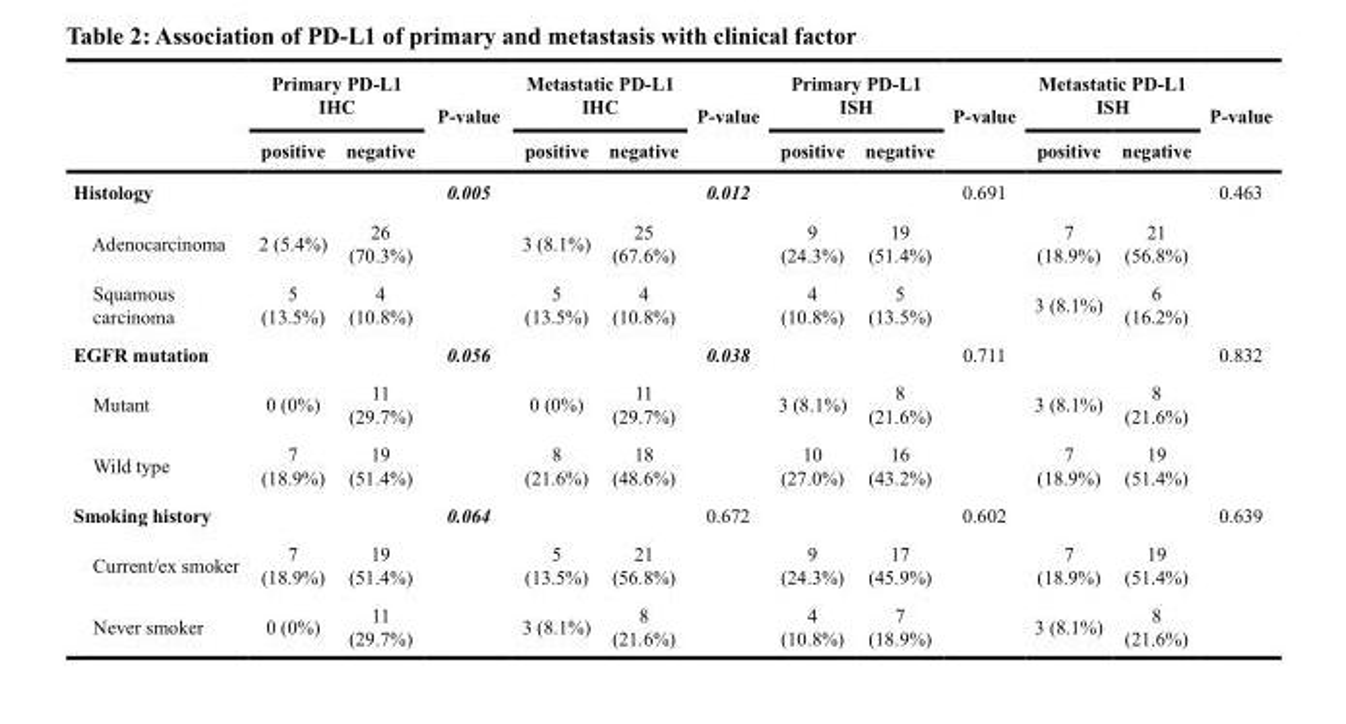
<table><thead><tr><td rowspan="2"></td><td colspan="2">Primary PD-L1 IHC</td><td rowspan="2">P-value</td><td colspan="2">Metastatic PD-L1 IHC</td><td rowspan="2">P-value</td><td colspan="2">Primary PD-L1 ISH</td><td rowspan="2">P-value</td><td colspan="2">Metastatic PD-L1 ISH</td><td rowspan="2">P-value</td></tr><tr><td>positive</td><td>negative</td><td>positive</td><td>negative</td><td>positive</td><td>negative</td><td>positive</td><td>negative</td></tr></thead><tbody><tr><td>Histology</td><td></td><td></td><td>0.005</td><td></td><td></td><td>0.012</td><td></td><td></td><td>0.691</td><td></td><td></td><td>0.463</td></tr><tr><td>Adenocarcinoma</td><td>2 (5.4%)</td><td>26 (70.3%)</td><td></td><td>3 (8.1%)</td><td>25 (67.6%)</td><td></td><td>9 (24.3%)</td><td>19 (51.4%)</td><td></td><td>7 (18.9%)</td><td>21 (56.8%)</td><td></td></tr><tr><td>Squamous carcinoma</td><td>5 (13.5%)</td><td>4 (10.8%)</td><td></td><td>5 (13.5%)</td><td>4 (10.8%)</td><td></td><td>4 (10.8%)</td><td>5 (13.5%)</td><td></td><td>3 (8.1%)</td><td>6 (16.2%)</td><td></td></tr><tr><td>EGFR mutation</td><td></td><td></td><td>0.056</td><td></td><td></td><td>0.038</td><td></td><td></td><td>0.711</td><td></td><td></td><td>0.832</td></tr><tr><td>Mutant</td><td>0 (0%)</td><td>11 (29.7%)</td><td></td><td>0 (0%)</td><td>11 (29.7%)</td><td></td><td>3 (8.1%)</td><td>8 (21.6%)</td><td></td><td>3 (8.1%)</td><td>8 (21.6%)</td><td></td></tr><tr><td>Wild type</td><td>7 (18.9%)</td><td>19 (51.4%)</td><td></td><td>8 (21.6%)</td><td>18 (48.6%)</td><td></td><td>10 (27.0%)</td><td>16 (43.2%)</td><td></td><td>7 (18.9%)</td><td>19 (51.4%)</td><td></td></tr><tr><td>Smoking history</td><td></td><td></td><td>0.064</td><td></td><td></td><td>0.672</td><td></td><td></td><td>0.602</td><td></td><td></td><td>0.639</td></tr><tr><td>Current/ex smoker</td><td>7 (18.9%)</td><td>19 (51.4%)</td><td></td><td>5 (13.5%)</td><td>21 (56.8%)</td><td></td><td>9 (24.3%)</td><td>17 (45.9%)</td><td></td><td>7 (18.9%)</td><td>19 (51.4%)</td><td></td></tr><tr><td>Never smoker</td><td>0 (0%)</td><td>11 (29.7%)</td><td></td><td>3 (8.1%)</td><td>8 (21.6%)</td><td></td><td>4 (10.8%)</td><td>7 (18.9%)</td><td></td><td>3 (8.1%)</td><td>8 (21.6%)</td><td></td></tr></tbody></table>